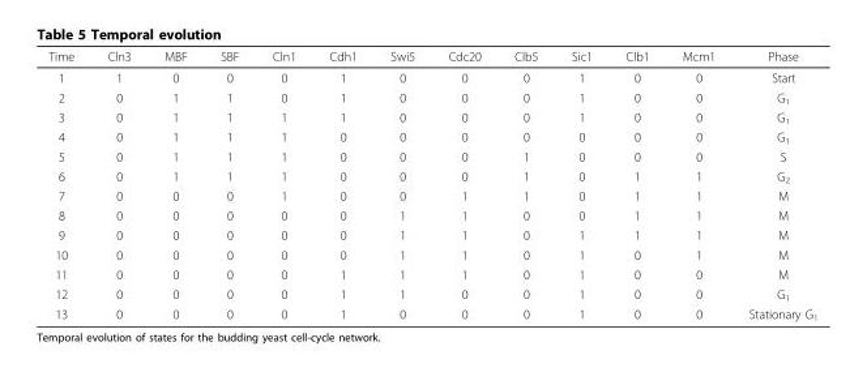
<table><thead><tr><td>Time</td><td>Cln3</td><td>MBF</td><td>SBF</td><td>Cln1</td><td>Cdh1</td><td>Swi5</td><td>Cdc20</td><td>Clb5</td><td>Sic1</td><td>Clb1</td><td>Mcm1</td><td>Phase</td></tr></thead><tbody><tr><td>1</td><td>1</td><td>0</td><td>0</td><td>0</td><td>1</td><td>0</td><td>0</td><td>0</td><td>1</td><td>0</td><td>0</td><td>Start</td></tr><tr><td>2</td><td>0</td><td>1</td><td>1</td><td>0</td><td>1</td><td>0</td><td>0</td><td>0</td><td>1</td><td>0</td><td>0</td><td>G<sub>1</sub></td></tr><tr><td>3</td><td>0</td><td>1</td><td>1</td><td>1</td><td>1</td><td>0</td><td>0</td><td>0</td><td>1</td><td>0</td><td>0</td><td>G<sub>1</sub></td></tr><tr><td>4</td><td>0</td><td>1</td><td>1</td><td>1</td><td>0</td><td>0</td><td>0</td><td>0</td><td>0</td><td>0</td><td>0</td><td>G<sub>1</sub></td></tr><tr><td>5</td><td>0</td><td>1</td><td>1</td><td>1</td><td>0</td><td>0</td><td>0</td><td>1</td><td>0</td><td>0</td><td>0</td><td>S</td></tr><tr><td>6</td><td>0</td><td>1</td><td>1</td><td>1</td><td>0</td><td>0</td><td>0</td><td>1</td><td>0</td><td>1</td><td>1</td><td>G<sub>2</sub></td></tr><tr><td>7</td><td>0</td><td>0</td><td>0</td><td>1</td><td>0</td><td>0</td><td>1</td><td>1</td><td>0</td><td>1</td><td>1</td><td>M</td></tr><tr><td>8</td><td>0</td><td>0</td><td>0</td><td>0</td><td>0</td><td>1</td><td>1</td><td>0</td><td>0</td><td>1</td><td>1</td><td>M</td></tr><tr><td>9</td><td>0</td><td>0</td><td>0</td><td>0</td><td>0</td><td>1</td><td>1</td><td>0</td><td>1</td><td>1</td><td>1</td><td>M</td></tr><tr><td>10</td><td>0</td><td>0</td><td>0</td><td>0</td><td>0</td><td>1</td><td>1</td><td>0</td><td>1</td><td>0</td><td>1</td><td>M</td></tr><tr><td>11</td><td>0</td><td>0</td><td>0</td><td>0</td><td>1</td><td>1</td><td>1</td><td>0</td><td>1</td><td>0</td><td>0</td><td>M</td></tr><tr><td>12</td><td>0</td><td>0</td><td>0</td><td>0</td><td>1</td><td>1</td><td>0</td><td>0</td><td>1</td><td>0</td><td>0</td><td>G<sub>1</sub></td></tr><tr><td>13</td><td>0</td><td>0</td><td>0</td><td>0</td><td>1</td><td>0</td><td>0</td><td>0</td><td>1</td><td>0</td><td>0</td><td>Stationary G<sub>1</sub></td></tr></tbody></table>